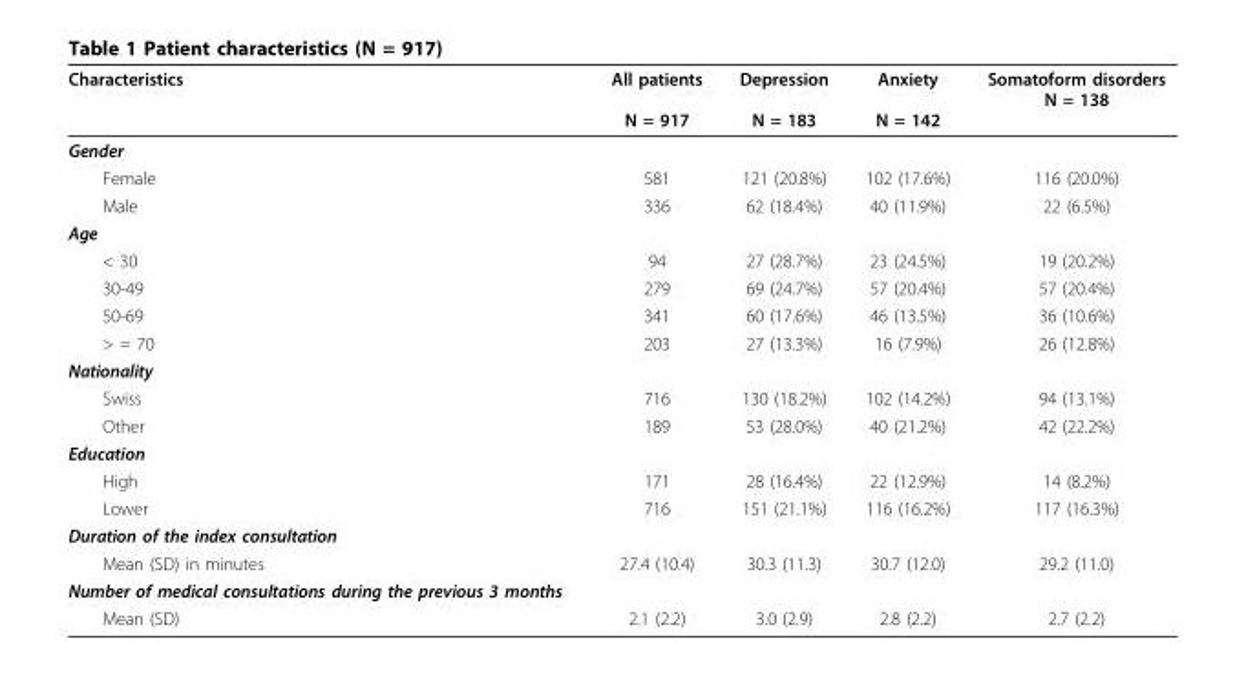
<table><thead><tr><td>Characteristics</td><td>All patients N = 917</td><td>Depression N = 183</td><td>Anxiety N = 142</td><td>Somatoform disorders N = 138</td></tr></thead><tbody><tr><td colspan="5">Gender</td></tr><tr><td>Female</td><td>581</td><td>121 (20.8%)</td><td>102 (17.6%)</td><td>116 (20.0%)</td></tr><tr><td>Male</td><td>336</td><td>62 (18.4%)</td><td>40 (11.9%)</td><td>22 (6.5%)</td></tr><tr><td colspan="5">Age</td></tr><tr><td>&lt; 30</td><td>94</td><td>27 (28.7%)</td><td>23 (24.5%)</td><td>19 (20.2%)</td></tr><tr><td>30-49</td><td>279</td><td>69 (24.7%)</td><td>57 (20.4%)</td><td>57 (20.4%)</td></tr><tr><td>50-69</td><td>341</td><td>60 (17.6%)</td><td>46 (13.5%)</td><td>36 (10.6%)</td></tr><tr><td>&gt; = 70</td><td>203</td><td>27 (13.3%)</td><td>16 (7.9%)</td><td>26 (12.8%)</td></tr><tr><td colspan="5">Nationality</td></tr><tr><td>Swiss</td><td>716</td><td>130 (18.2%)</td><td>102 (14.2%)</td><td>94 (13.1%)</td></tr><tr><td>Other</td><td>189</td><td>53 (28.0%)</td><td>40 (21.2%)</td><td>42 (22.2%)</td></tr><tr><td colspan="5">Education</td></tr><tr><td>High</td><td>171</td><td>28 (16.4%)</td><td>22 (12.9%)</td><td>14 (8.2%)</td></tr><tr><td>Lower</td><td>716</td><td>151 (21.1%)</td><td>116 (16.2%)</td><td>117 (16.3%)</td></tr><tr><td colspan="5">Duration of the index consultation</td></tr><tr><td>Mean (SD) in minutes</td><td>27.4 (10.4)</td><td>30.3 (11.3)</td><td>30.7 (12.0)</td><td>29.2 (11.0)</td></tr><tr><td colspan="5">Number of medical consultations during the previous 3 months</td></tr><tr><td>Mean (SD)</td><td>2.1 (2.2)</td><td>3.0 (2.9)</td><td>2.8 (2.2)</td><td>2.7 (2.2)</td></tr></tbody></table>